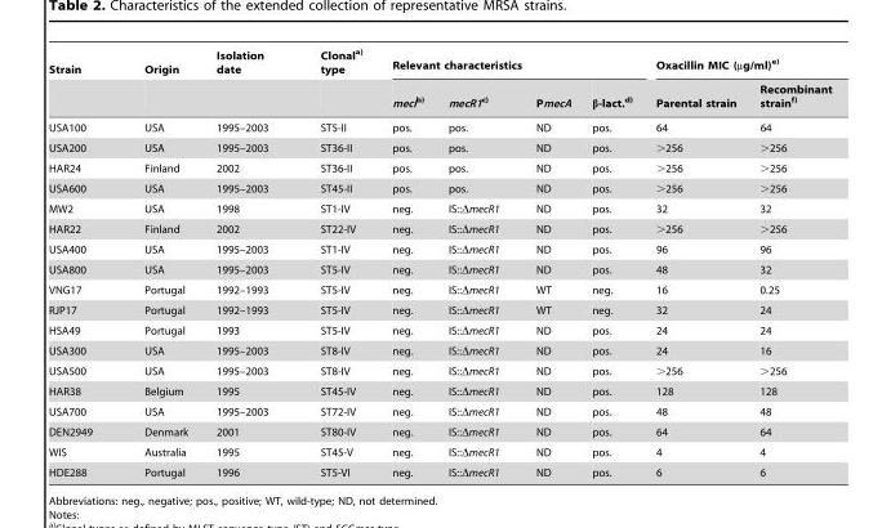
<table><thead><tr><td rowspan="2">Strain</td><td rowspan="2">Origin</td><td rowspan="2">Isolation date</td><td rowspan="2">Clonala) type</td><td colspan="4">Relevant characteristics</td><td colspan="2">Oxacillin MIC (µg/ml)e)</td></tr><tr><td>mecIb)</td><td>mecR1c)</td><td>PmecA</td><td>β-lact.d)</td><td>Parental strain</td><td>Recombinant strainf)</td></tr></thead><tbody><tr><td>USA100</td><td>USA</td><td>1995–2003</td><td>ST5-II</td><td>pos.</td><td>pos.</td><td>ND</td><td>pos.</td><td>64</td><td>64</td></tr><tr><td>USA200</td><td>USA</td><td>1995–2003</td><td>ST36-II</td><td>pos.</td><td>pos.</td><td>ND</td><td>pos.</td><td>&gt;256</td><td>&gt;256</td></tr><tr><td>HAR24</td><td>Finland</td><td>2002</td><td>ST36-II</td><td>pos.</td><td>pos.</td><td>ND</td><td>pos.</td><td>&gt;256</td><td>&gt;256</td></tr><tr><td>USA600</td><td>USA</td><td>1995–2003</td><td>ST45-II</td><td>pos.</td><td>pos.</td><td>ND</td><td>pos.</td><td>&gt;256</td><td>&gt;256</td></tr><tr><td>MW2</td><td>USA</td><td>1998</td><td>ST1-IV</td><td>neg.</td><td>IS::ΔmecR1</td><td>ND</td><td>pos.</td><td>32</td><td>32</td></tr><tr><td>HAR22</td><td>Finland</td><td>2002</td><td>ST22-IV</td><td>neg.</td><td>IS::ΔmecR1</td><td>ND</td><td>pos.</td><td>&gt;256</td><td>&gt;256</td></tr><tr><td>USA400</td><td>USA</td><td>1995–2003</td><td>ST1-IV</td><td>neg.</td><td>IS::ΔmecR1</td><td>ND</td><td>pos.</td><td>96</td><td>96</td></tr><tr><td>USA800</td><td>USA</td><td>1995–2003</td><td>ST5-IV</td><td>neg.</td><td>IS::ΔmecR1</td><td>ND</td><td>pos.</td><td>48</td><td>32</td></tr><tr><td>VNG17</td><td>Portugal</td><td>1992–1993</td><td>ST5-IV</td><td>neg.</td><td>IS::ΔmecR1</td><td>WT</td><td>neg.</td><td>16</td><td>0.25</td></tr><tr><td>RJP17</td><td>Portugal</td><td>1992–1993</td><td>ST5-IV</td><td>neg.</td><td>IS::ΔmecR1</td><td>WT</td><td>neg.</td><td>32</td><td>24</td></tr><tr><td>HSA49</td><td>Portugal</td><td>1993</td><td>ST5-IV</td><td>neg.</td><td>IS::ΔmecR1</td><td>ND</td><td>pos.</td><td>24</td><td>24</td></tr><tr><td>USA300</td><td>USA</td><td>1995–2003</td><td>ST8-IV</td><td>neg.</td><td>IS::ΔmecR1</td><td>ND</td><td>pos.</td><td>24</td><td>16</td></tr><tr><td>USA500</td><td>USA</td><td>1995–2003</td><td>ST8-IV</td><td>neg.</td><td>IS::ΔmecR1</td><td>ND</td><td>pos.</td><td>&gt;256</td><td>&gt;256</td></tr><tr><td>HAR38</td><td>Belgium</td><td>1995</td><td>ST45-IV</td><td>neg.</td><td>IS::ΔmecR1</td><td>ND</td><td>pos.</td><td>128</td><td>128</td></tr><tr><td>USA700</td><td>USA</td><td>1995–2003</td><td>ST72-IV</td><td>neg.</td><td>IS::ΔmecR1</td><td>ND</td><td>pos.</td><td>48</td><td>48</td></tr><tr><td>DEN2949</td><td>Denmark</td><td>2001</td><td>ST80-IV</td><td>neg.</td><td>IS::ΔmecR1</td><td>ND</td><td>pos.</td><td>64</td><td>64</td></tr><tr><td>WIS</td><td>Australia</td><td>1995</td><td>ST45-V</td><td>neg.</td><td>IS::ΔmecR1</td><td>ND</td><td>pos.</td><td>4</td><td>4</td></tr><tr><td>HDE288</td><td>Portugal</td><td>1996</td><td>ST5-VI</td><td>neg.</td><td>IS::ΔmecR1</td><td>ND</td><td>pos.</td><td>6</td><td>6</td></tr></tbody></table>